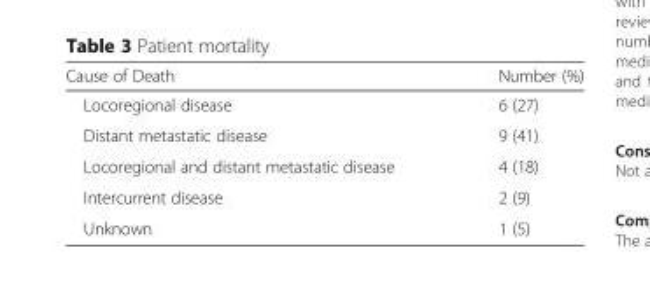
<table><thead><tr><td>Cause of Death</td><td>Number (%)</td></tr></thead><tbody><tr><td>Locoregional disease</td><td>6 (27)</td></tr><tr><td>Distant metastatic disease</td><td>9 (41)</td></tr><tr><td>Locoregional and distant metastatic disease</td><td>4 (18)</td></tr><tr><td>Intercurrent disease</td><td>2 (9)</td></tr><tr><td>Unknown</td><td>1 (5)</td></tr></tbody></table>